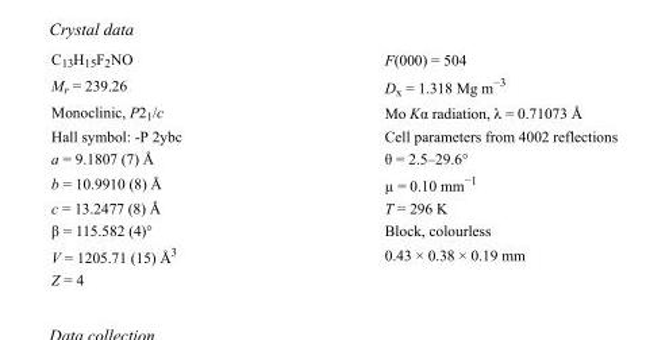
<table><tbody><tr><td>C<sub>13</sub>H<sub>15</sub>F<sub>2</sub>NO</td><td>F(000) = 504</td></tr><tr><td>M<sub>r</sub> = 239.26</td><td>D<sub>x</sub> = 1.318 Mg m<sup>−3</sup></td></tr><tr><td>Monoclinic, P2<sub>1</sub>/c</td><td>Mo Kα radiation, λ = 0.71073 Å</td></tr><tr><td>Hall symbol: -P 2ybc</td><td>Cell parameters from 4002 reflections</td></tr><tr><td>a = 9.1807 (7) Å</td><td>θ = 2.5–29.6°</td></tr><tr><td>b = 10.9910 (8) Å</td><td>µ = 0.10 mm<sup>−1</sup></td></tr><tr><td>c = 13.2477 (8) Å</td><td>T = 296 K</td></tr><tr><td>β = 115.582 (4)°</td><td>Block, colourless</td></tr><tr><td>V = 1205.71 (15) Å<sup>3</sup></td><td>0.43 × 0.38 × 0.19 mm</td></tr><tr><td>Z = 4</td><td></td></tr></tbody></table>